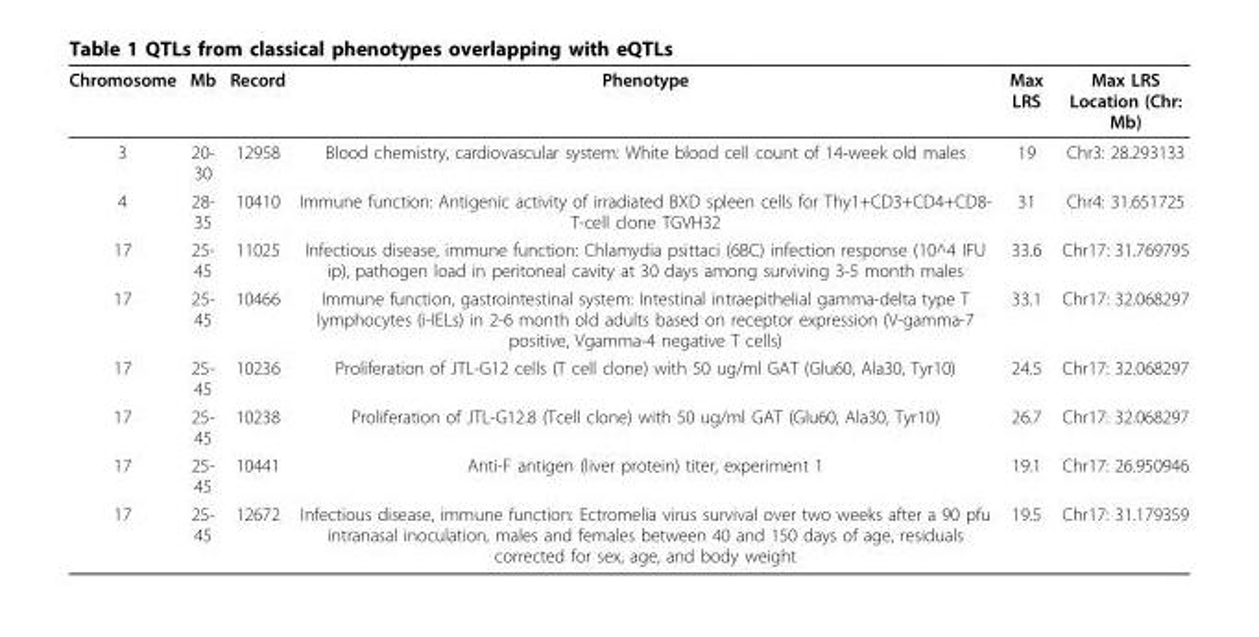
<table><thead><tr><td>Chromosome</td><td>Mb</td><td>Record</td><td>Phenotype</td><td>Max LRS</td><td>Max LRS Location (Chr: Mb)</td></tr></thead><tbody><tr><td>3</td><td>20- 30</td><td>12958</td><td>Blood chemistry, cardiovascular system: White blood cell count of 14-week old males</td><td>19</td><td>Chr3: 28.293133</td></tr><tr><td>4</td><td>28- 35</td><td>10410</td><td>Immune function: Antigenic activity of irradiated BXD spleen cells for Thy1+CD3+CD4+CD8- T-cell clone TGVH32</td><td>31</td><td>Chr4: 31.651725</td></tr><tr><td>17</td><td>25- 45</td><td>11025</td><td>Infectious disease, immune function: Chlamydia psittaci (6BC) infection response (10^4 IFU ip), pathogen load in peritoneal cavity at 30 days among surviving 3-5 month males</td><td>33.6</td><td>Chr17: 31.769795</td></tr><tr><td>17</td><td>25- 45</td><td>10466</td><td>Immune function, gastrointestinal system: Intestinal intraepithelial gamma-delta type T lymphocytes (i-IELs) in 2-6 month old adults based on receptor expression (V-gamma-7 positive, Vgamma-4 negative T cells)</td><td>33.1</td><td>Chr17: 32.068297</td></tr><tr><td>17</td><td>25- 45</td><td>10236</td><td>Proliferation of JTL-G12 cells (T cell clone) with 50 ug/ml GAT (Glu60, Ala30, Tyr10)</td><td>24.5</td><td>Chr17: 32.068297</td></tr><tr><td>17</td><td>25- 45</td><td>10238</td><td>Proliferation of JTL-G12.8 (Tcell clone) with 50 ug/ml GAT (Glu60, Ala30, Tyr10)</td><td>26.7</td><td>Chr17: 32.068297</td></tr><tr><td>17</td><td>25- 45</td><td>10441</td><td>Anti-F antigen (liver protein) titer, experiment 1</td><td>19.1</td><td>Chr17: 26.950946</td></tr><tr><td>17</td><td>25- 45</td><td>12672</td><td>Infectious disease, immune function: Ectromelia virus survival over two weeks after a 90 pfu intranasal inoculation, males and females between 40 and 150 days of age, residuals corrected for sex, age, and body weight</td><td>19.5</td><td>Chr17: 31.179359</td></tr></tbody></table>